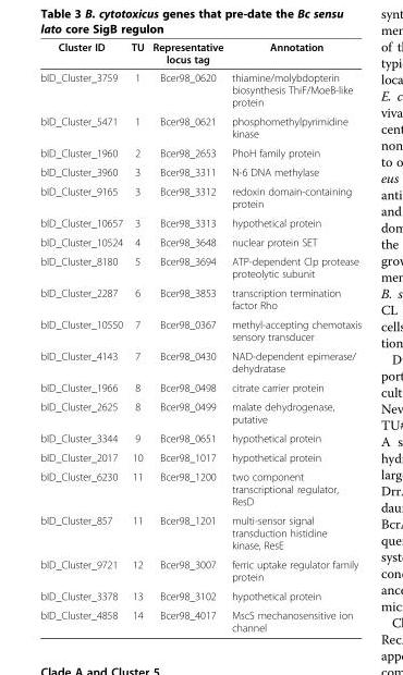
<table><thead><tr><td>Cluster ID</td><td>TU</td><td>Representative locus tag</td><td>Annotation</td></tr></thead><tbody><tr><td>bID_Cluster_3759</td><td>1</td><td>Bcer98_0620</td><td>thiamine/molybdopterin biosynthesis ThiF/MoeB-like protein</td></tr><tr><td>bID_Cluster_5471</td><td>1</td><td>Bcer98_0621</td><td>phosphomethylpyrimidine kinase</td></tr><tr><td>bID_Cluster_1960</td><td>2</td><td>Bcer98_2653</td><td>PhoH family protein</td></tr><tr><td>bID_Cluster_3960</td><td>3</td><td>Bcer98_3311</td><td>N-6 DNA methylase</td></tr><tr><td>bID_Cluster_9165</td><td>3</td><td>Bcer98_3312</td><td>redoxin domain-containing protein</td></tr><tr><td>bID_Cluster_10657</td><td>3</td><td>Bcer98_3313</td><td>hypothetical protein</td></tr><tr><td>bID_Cluster_10524</td><td>4</td><td>Bcer98_3648</td><td>nuclear protein SET</td></tr><tr><td>bID_Cluster_8180</td><td>5</td><td>Bcer98_3694</td><td>ATP-dependent Clp protease proteolytic subunit</td></tr><tr><td>bID_Cluster_2287</td><td>6</td><td>Bcer98_3853</td><td>transcription termination factor Rho</td></tr><tr><td>bID_Cluster_10550</td><td>7</td><td>Bcer98_0367</td><td>methyl-accepting chemotaxis sensory transducer</td></tr><tr><td>bID_Cluster_4143</td><td>7</td><td>Bcer98_0430</td><td>NAD-dependent epimerase/ dehydratase</td></tr><tr><td>bID_Cluster_1966</td><td>8</td><td>Bcer98_0498</td><td>citrate carrier protein</td></tr><tr><td>bID_Cluster_2625</td><td>8</td><td>Bcer98_0499</td><td>malate dehydrogenase, putative</td></tr><tr><td>bID_Cluster_3344</td><td>9</td><td>Bcer98_0651</td><td>hypothetical protein</td></tr><tr><td>bID_Cluster_2017</td><td>10</td><td>Bcer98_1017</td><td>hypothetical protein</td></tr><tr><td>bID_Cluster_6230</td><td>11</td><td>Bcer98_1200</td><td>two component transcriptional regulator, ResD</td></tr><tr><td>bID_Cluster_857</td><td>11</td><td>Bcer98_1201</td><td>multi-sensor signal transduction histidine kinase, ResE</td></tr><tr><td>bID_Cluster_9721</td><td>12</td><td>Bcer98_3007</td><td>ferric uptake regulator family protein</td></tr><tr><td>bID_Cluster_3378</td><td>13</td><td>Bcer98_3102</td><td>hypothetical protein</td></tr><tr><td>bID_Cluster_4858</td><td>14</td><td>Bcer98_4017</td><td>MscS mechanosensitive ion channel</td></tr></tbody></table>